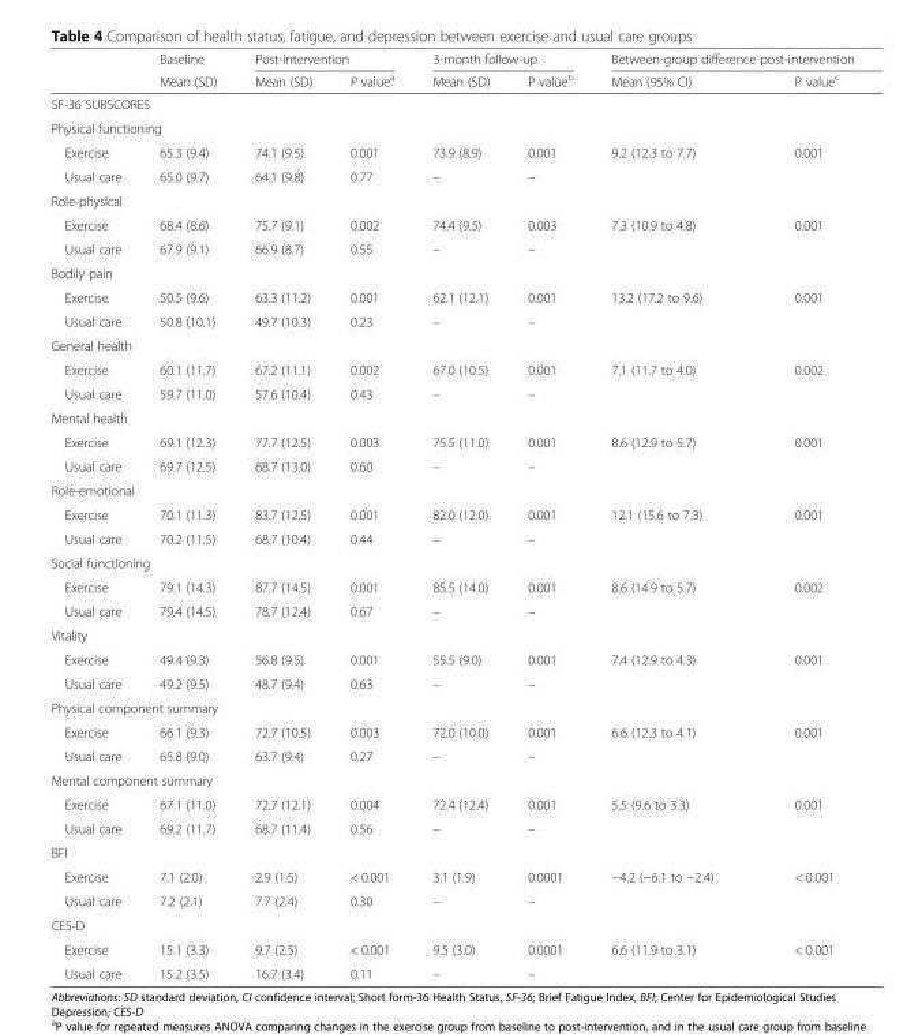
<table><thead><tr><td rowspan="2"></td><td rowspan="2">Baseline Mean (SD)</td><td colspan="2">Post-intervention</td><td colspan="2">3-month follow-up</td><td colspan="2">Between-group difference post-intervention</td></tr><tr><td>Mean (SD)</td><td>P value<sup>a</sup></td><td>Mean (SD)</td><td>P value<sup>b</sup></td><td>Mean (95% CI)</td><td>P value<sup>c</sup></td></tr></thead><tbody><tr><td colspan="8">SF-36 SUBSCORES</td></tr><tr><td colspan="8">Physical functioning</td></tr><tr><td>Exercise</td><td>65.3 (9.4)</td><td>74.1 (9.5)</td><td>0.001</td><td>73.9 (8.9)</td><td>0.001</td><td rowspan="2">9.2 (12.3 to 7.7)</td><td rowspan="2">0.001</td></tr><tr><td>Usual care</td><td>65.0 (9.7)</td><td>64.1 (9.8)</td><td>0.77</td><td>–</td><td>–</td></tr><tr><td colspan="8">Role-physical</td></tr><tr><td>Exercise</td><td>68.4 (8.6)</td><td>75.7 (9.1)</td><td>0.002</td><td>74.4 (9.5)</td><td>0.003</td><td rowspan="2">7.3 (10.9 to 4.8)</td><td rowspan="2">0.001</td></tr><tr><td>Usual care</td><td>67.9 (9.1)</td><td>66.9 (8.7)</td><td>0.55</td><td>–</td><td>–</td></tr><tr><td colspan="8">Bodily pain</td></tr><tr><td>Exercise</td><td>50.5 (9.6)</td><td>63.3 (11.2)</td><td>0.001</td><td>62.1 (12.1)</td><td>0.001</td><td rowspan="2">13.2 (17.2 to 9.6)</td><td rowspan="2">0.001</td></tr><tr><td>Usual care</td><td>50.8 (10.1)</td><td>49.7 (10.3)</td><td>0.23</td><td>–</td><td>–</td></tr><tr><td colspan="8">General health</td></tr><tr><td>Exercise</td><td>60.1 (11.7)</td><td>67.2 (11.1)</td><td>0.002</td><td>67.0 (10.5)</td><td>0.001</td><td rowspan="2">7.1 (11.7 to 4.0)</td><td rowspan="2">0.002</td></tr><tr><td>Usual care</td><td>59.7 (11.0)</td><td>57.6 (10.4)</td><td>0.43</td><td>–</td><td>–</td></tr><tr><td colspan="8">Mental health</td></tr><tr><td>Exercise</td><td>69.1 (12.3)</td><td>77.7 (12.5)</td><td>0.003</td><td>75.5 (11.0)</td><td>0.001</td><td rowspan="2">8.6 (12.9 to 5.7)</td><td rowspan="2">0.001</td></tr><tr><td>Usual care</td><td>69.7 (12.5)</td><td>68.7 (13.0)</td><td>0.60</td><td>–</td><td>–</td></tr><tr><td colspan="8">Role-emotional</td></tr><tr><td>Exercise</td><td>70.1 (11.3)</td><td>83.7 (12.5)</td><td>0.001</td><td>82.0 (12.0)</td><td>0.001</td><td rowspan="2">12.1 (15.6 to 7.3)</td><td rowspan="2">0.001</td></tr><tr><td>Usual care</td><td>70.2 (11.5)</td><td>68.7 (10.4)</td><td>0.44</td><td>–</td><td>–</td></tr><tr><td colspan="8">Social functioning</td></tr><tr><td>Exercise</td><td>79.1 (14.3)</td><td>87.7 (14.5)</td><td>0.001</td><td>85.5 (14.0)</td><td>0.001</td><td rowspan="2">8.6 (14.9 to 5.7)</td><td rowspan="2">0.002</td></tr><tr><td>Usual care</td><td>79.4 (14.5)</td><td>78.7 (12.4)</td><td>0.67</td><td>–</td><td>–</td></tr><tr><td colspan="8">Vitality</td></tr><tr><td>Exercise</td><td>49.4 (9.3)</td><td>56.8 (9.5)</td><td>0.001</td><td>55.5 (9.0)</td><td>0.001</td><td rowspan="2">7.4 (12.9 to 4.3)</td><td rowspan="2">0.001</td></tr><tr><td>Usual care</td><td>49.2 (9.5)</td><td>48.7 (9.4)</td><td>0.63</td><td>–</td><td>–</td></tr><tr><td colspan="8">Physical component summary</td></tr><tr><td>Exercise</td><td>66.1 (9.3)</td><td>72.7 (10.5)</td><td>0.003</td><td>72.0 (10.0)</td><td>0.001</td><td rowspan="2">6.6 (12.3 to 4.1)</td><td rowspan="2">0.001</td></tr><tr><td>Usual care</td><td>65.8 (9.0)</td><td>63.7 (9.4)</td><td>0.27</td><td>–</td><td>–</td></tr><tr><td colspan="8">Mental component summary</td></tr><tr><td>Exercise</td><td>67.1 (11.0)</td><td>72.7 (12.1)</td><td>0.004</td><td>72.4 (12.4)</td><td>0.001</td><td rowspan="2">5.5 (9.6 to 3.3)</td><td rowspan="2">0.001</td></tr><tr><td>Usual care</td><td>69.2 (11.7)</td><td>68.7 (11.4)</td><td>0.56</td><td>–</td><td>–</td></tr><tr><td colspan="8">BFI</td></tr><tr><td>Exercise</td><td>7.1 (2.0)</td><td>2.9 (1.5)</td><td>&lt; 0.001</td><td>3.1 (1.9)</td><td>0.0001</td><td rowspan="2">−4.2 (−6.1 to −2.4)</td><td rowspan="2">&lt; 0.001</td></tr><tr><td>Usual care</td><td>7.2 (2.1)</td><td>7.7 (2.4)</td><td>0.30</td><td>–</td><td>–</td></tr><tr><td colspan="8">CES-D</td></tr><tr><td>Exercise</td><td>15.1 (3.3)</td><td>9.7 (2.5)</td><td>&lt; 0.001</td><td>9.5 (3.0)</td><td>0.0001</td><td rowspan="2">6.6 (11.9 to 3.1)</td><td rowspan="2">&lt; 0.001</td></tr><tr><td>Usual care</td><td>15.2 (3.5)</td><td>16.7 (3.4)</td><td>0.11</td><td>–</td><td>–</td></tr></tbody></table>